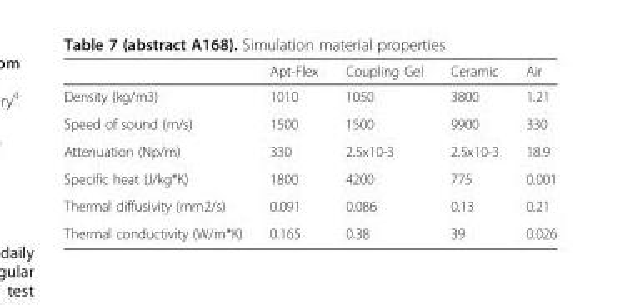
<table><thead><tr><td></td><td>Apt-Flex</td><td>Coupling Gel</td><td>Ceramic</td><td>Air</td></tr></thead><tbody><tr><td>Density (kg/m3)</td><td>1010</td><td>1050</td><td>3800</td><td>1.21</td></tr><tr><td>Speed of sound (m/s)</td><td>1500</td><td>1500</td><td>9900</td><td>330</td></tr><tr><td>Attenuation (Np/m)</td><td>330</td><td>2.5x10-3</td><td>2.5x10-3</td><td>18.9</td></tr><tr><td>Specific heat (J/kg*K)</td><td>1800</td><td>4200</td><td>775</td><td>0.001</td></tr><tr><td>Thermal diffusivity (mm2/s)</td><td>0.091</td><td>0.086</td><td>0.13</td><td>0.21</td></tr><tr><td>Thermal conductivity (W/m*K)</td><td>0.165</td><td>0.38</td><td>39</td><td>0.026</td></tr></tbody></table>